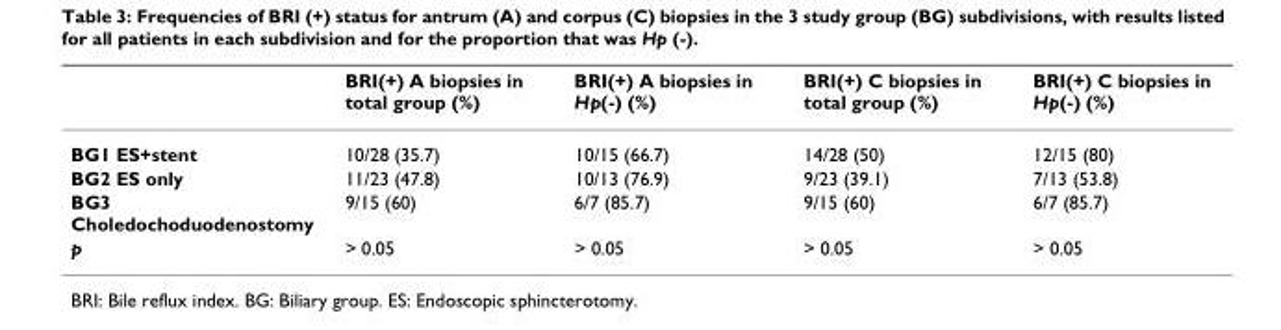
<table><thead><tr><td></td><td>BRI(+) A biopsies in total group (%)</td><td>BRI(+) A biopsies in Hp(-) (%)</td><td>BRI(+) C biopsies in total group (%)</td><td>BRI(+) C biopsies in Hp(-) (%)</td></tr></thead><tbody><tr><td>BG1 ES+stent</td><td>10/28 (35.7)</td><td>10/15 (66.7)</td><td>14/28 (50)</td><td>12/15 (80)</td></tr><tr><td>BG2 ES only</td><td>11/23 (47.8)</td><td>10/13 (76.9)</td><td>9/23 (39.1)</td><td>7/13 (53.8)</td></tr><tr><td>BG3 Choledochoduodenostomy</td><td>9/15 (60)</td><td>6/7 (85.7)</td><td>9/15 (60)</td><td>6/7 (85.7)</td></tr><tr><td>p</td><td>&gt; 0.05</td><td>&gt; 0.05</td><td>&gt; 0.05</td><td>&gt; 0.05</td></tr></tbody></table>